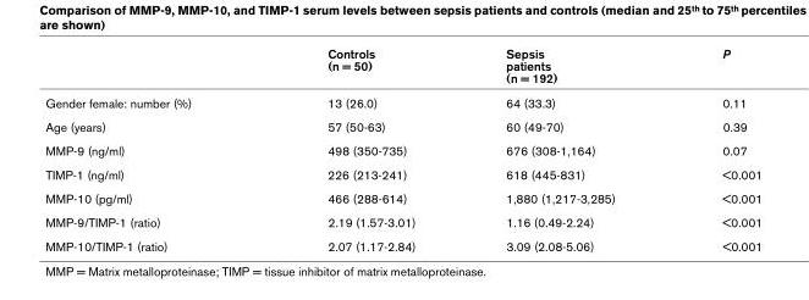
<table><thead><tr><td></td><td>Controls (n = 50)</td><td>Sepsis patients (n = 192)</td><td>P</td></tr></thead><tbody><tr><td>Gender female: number (%)</td><td>13 (26.0)</td><td>64 (33.3)</td><td>0.11</td></tr><tr><td>Age (years)</td><td>57 (50-63)</td><td>60 (49-70)</td><td>0.39</td></tr><tr><td>MMP-9 (ng/ml)</td><td>498 (350-735)</td><td>676 (308-1,164)</td><td>0.07</td></tr><tr><td>TIMP-1 (ng/ml)</td><td>226 (213-241)</td><td>618 (445-831)</td><td>&lt;0.001</td></tr><tr><td>MMP-10 (pg/ml)</td><td>466 (288-614)</td><td>1,880 (1,217-3,285)</td><td>&lt;0.001</td></tr><tr><td>MMP-9/TIMP-1 (ratio)</td><td>2.19 (1.57-3.01)</td><td>1.16 (0.49-2.24)</td><td>&lt;0.001</td></tr><tr><td>MMP-10/TIMP-1 (ratio)</td><td>2.07 (1.17-2.84)</td><td>3.09 (2.08-5.06)</td><td>&lt;0.001</td></tr></tbody></table>